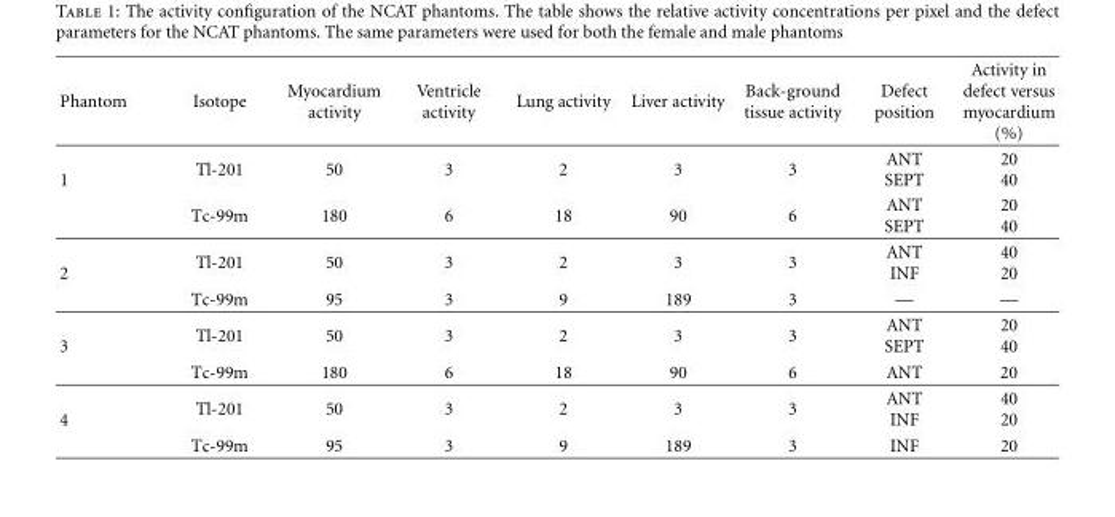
<table><thead><tr><td>Phantom</td><td>Isotope</td><td>Myocardium activity</td><td>Ventricle activity</td><td>Lung activity</td><td>Liver activity</td><td>Back-ground tissue activity</td><td>Defect position</td><td>Activity in defect versus myocardium (%)</td></tr></thead><tbody><tr><td rowspan="2">1</td><td>Tl-201</td><td>50</td><td>3</td><td>2</td><td>3</td><td>3</td><td>ANT SEPT</td><td>20 40</td></tr><tr><td>Tc-99m</td><td>180</td><td>6</td><td>18</td><td>90</td><td>6</td><td>ANT SEPT</td><td>20 40</td></tr><tr><td rowspan="2">2</td><td>Tl-201</td><td>50</td><td>3</td><td>2</td><td>3</td><td>3</td><td>ANT INF</td><td>40 20</td></tr><tr><td>Tc-99m</td><td>95</td><td>3</td><td>9</td><td>189</td><td>3</td><td>—</td><td>—</td></tr><tr><td rowspan="2">3</td><td>Tl-201</td><td>50</td><td>3</td><td>2</td><td>3</td><td>3</td><td>ANT SEPT</td><td>20 40</td></tr><tr><td>Tc-99m</td><td>180</td><td>6</td><td>18</td><td>90</td><td>6</td><td>ANT</td><td>20</td></tr><tr><td rowspan="2">4</td><td>Tl-201</td><td>50</td><td>3</td><td>2</td><td>3</td><td>3</td><td>ANT INF</td><td>40 20</td></tr><tr><td>Tc-99m</td><td>95</td><td>3</td><td>9</td><td>189</td><td>3</td><td>INF</td><td>20</td></tr></tbody></table>